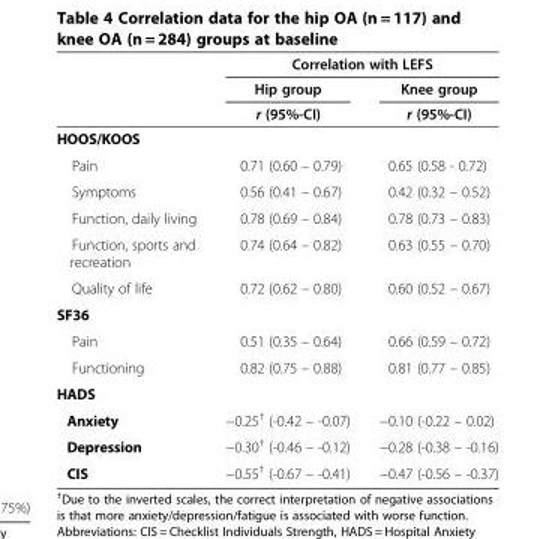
<table><thead><tr><td rowspan="3"></td><td colspan="2">Correlation with LEFS</td></tr><tr><td rowspan="2">Hip group r (95%-CI)</td><td rowspan="2">Knee group r (95%-CI)</td></tr><tr></tr></thead><tbody><tr><td colspan="3">HOOS/KOOS</td></tr><tr><td>Pain</td><td>0.71 (0.60 – 0.79)</td><td>0.65 (0.58 - 0.72)</td></tr><tr><td>Symptoms</td><td>0.56 (0.41 – 0.67)</td><td>0.42 (0.32 – 0.52)</td></tr><tr><td>Function, daily living</td><td>0.78 (0.69 – 0.84)</td><td>0.78 (0.73 – 0.83)</td></tr><tr><td>Function, sports and recreation</td><td>0.74 (0.64 – 0.82)</td><td>0.63 (0.55 – 0.70)</td></tr><tr><td>Quality of life</td><td>0.72 (0.62 – 0.80)</td><td>0.60 (0.52 – 0.67)</td></tr><tr><td colspan="3">SF36</td></tr><tr><td>Pain</td><td>0.51 (0.35 – 0.64)</td><td>0.66 (0.59 – 0.72)</td></tr><tr><td>Functioning</td><td>0.82 (0.75 – 0.88)</td><td>0.81 (0.77 – 0.85)</td></tr><tr><td colspan="3">HADS</td></tr><tr><td>Anxiety</td><td>−0.25<sup>†</sup> (-0.42 – -0.07)</td><td>−0.10 (-0.22 – 0.02)</td></tr><tr><td>Depression</td><td>−0.30<sup>†</sup> (-0.46 – -0.12)</td><td>−0.28 (-0.38 – -0.16)</td></tr><tr><td>CIS</td><td>−0.55<sup>†</sup> (-0.67 – -0.41)</td><td>−0.47 (-0.56 – -0.37)</td></tr></tbody></table>